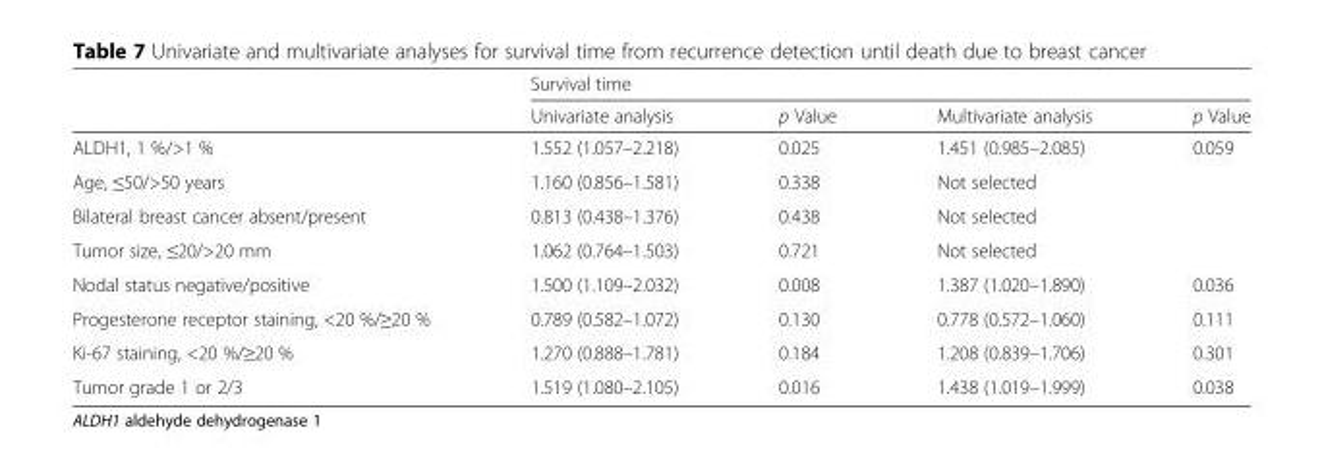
<table><thead><tr><td rowspan="2"></td><td colspan="4">Survival time</td></tr><tr><td>Univariate analysis</td><td>p Value</td><td>Multivariate analysis</td><td>p Value</td></tr></thead><tbody><tr><td>ALDH1, 1 %/&gt;1 %</td><td>1.552 (1.057–2.218)</td><td>0.025</td><td>1.451 (0.985–2.085)</td><td>0.059</td></tr><tr><td>Age, ≤50/&gt;50 years</td><td>1.160 (0.856–1.581)</td><td>0.338</td><td>Not selected</td><td></td></tr><tr><td>Bilateral breast cancer absent/present</td><td>0.813 (0.438–1.376)</td><td>0.438</td><td>Not selected</td><td></td></tr><tr><td>Tumor size, ≤20/&gt;20 mm</td><td>1.062 (0.764–1.503)</td><td>0.721</td><td>Not selected</td><td></td></tr><tr><td>Nodal status negative/positive</td><td>1.500 (1.109–2.032)</td><td>0.008</td><td>1.387 (1.020–1.890)</td><td>0.036</td></tr><tr><td>Progesterone receptor staining, &lt;20 %/≥20 %</td><td>0.789 (0.582–1.072)</td><td>0.130</td><td>0.778 (0.572–1.060)</td><td>0.111</td></tr><tr><td>Ki-67 staining, &lt;20 %/≥20 %</td><td>1.270 (0.888–1.781)</td><td>0.184</td><td>1.208 (0.839–1.706)</td><td>0.301</td></tr><tr><td>Tumor grade 1 or 2/3</td><td>1.519 (1.080–2.105)</td><td>0.016</td><td>1.438 (1.019–1.999)</td><td>0.038</td></tr></tbody></table>